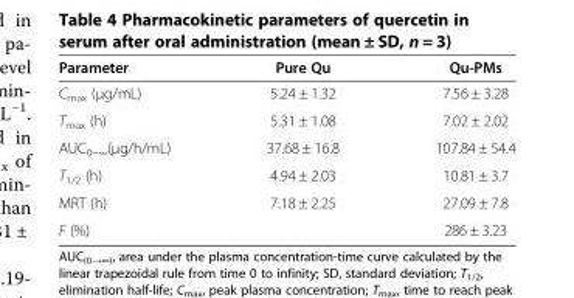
<table><thead><tr><td>Parameter</td><td>Pure Qu</td><td>Qu-PMs</td></tr></thead><tbody><tr><td>C<sub>max</sub> (μg/mL)</td><td>5.24 ± 1.32</td><td>7.56 ± 3.28</td></tr><tr><td>T<sub>max</sub> (h)</td><td>5.31 ± 1.08</td><td>7.02 ± 2.02</td></tr><tr><td>AUC<sub>0~∞</sub>(μg/h/mL)</td><td>37.68 ± 16.8</td><td>107.84 ± 54.4</td></tr><tr><td>T<sub>1/2</sub> (h)</td><td>4.94 ± 2.03</td><td>10.81 ± 3.7</td></tr><tr><td>MRT (h)</td><td>7.18 ± 2.25</td><td>27.09 ± 7.8</td></tr><tr><td>F (%)</td><td></td><td>286 ± 3.23</td></tr></tbody></table>